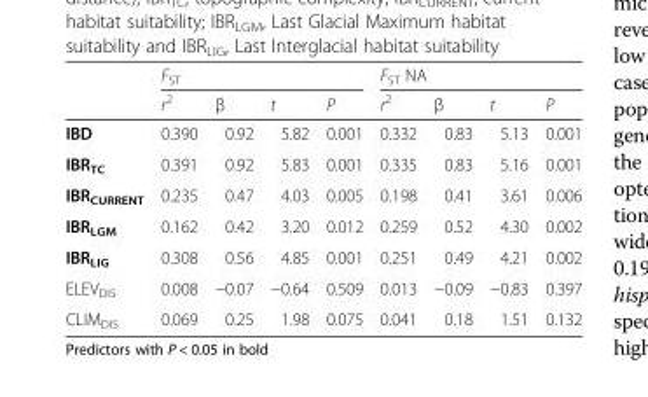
<table><thead><tr><td rowspan="2"></td><td colspan="4">F<sub>ST</sub></td><td colspan="4">F<sub>ST</sub> NA</td></tr><tr><td>r<sup>2</sup></td><td>β</td><td>t</td><td>P</td><td>r<sup>2</sup></td><td>β</td><td>t</td><td>P</td></tr></thead><tbody><tr><td>IBD</td><td>0.390</td><td>0.92</td><td>5.82</td><td>0.001</td><td>0.332</td><td>0.83</td><td>5.13</td><td>0.001</td></tr><tr><td>IBR<sub>TC</sub></td><td>0.391</td><td>0.92</td><td>5.83</td><td>0.001</td><td>0.335</td><td>0.83</td><td>5.16</td><td>0.001</td></tr><tr><td>IBR<sub>CURRENT</sub></td><td>0.235</td><td>0.47</td><td>4.03</td><td>0.005</td><td>0.198</td><td>0.41</td><td>3.61</td><td>0.006</td></tr><tr><td>IBR<sub>LGM</sub></td><td>0.162</td><td>0.42</td><td>3.20</td><td>0.012</td><td>0.259</td><td>0.52</td><td>4.30</td><td>0.002</td></tr><tr><td>IBR<sub>LIG</sub></td><td>0.308</td><td>0.56</td><td>4.85</td><td>0.001</td><td>0.251</td><td>0.49</td><td>4.21</td><td>0.002</td></tr><tr><td>ELEV<sub>DIS</sub></td><td>0.008</td><td>−0.07</td><td>−0.64</td><td>0.509</td><td>0.013</td><td>−0.09</td><td>−0.83</td><td>0.397</td></tr><tr><td>CLIM<sub>DIS</sub></td><td>0.069</td><td>0.25</td><td>1.98</td><td>0.075</td><td>0.041</td><td>0.18</td><td>1.51</td><td>0.132</td></tr></tbody></table>